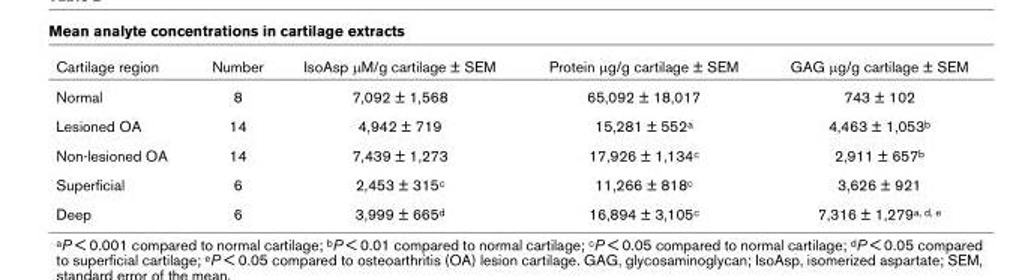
<table><thead><tr><td>Cartilage region</td><td>Number</td><td>IsoAsp μM/g cartilage ± SEM</td><td>Protein μg/g cartilage ± SEM</td><td>GAG μg/g cartilage ± SEM</td></tr></thead><tbody><tr><td>Normal</td><td>8</td><td>7,092 ± 1,568</td><td>65,092 ± 18,017</td><td>743 ± 102</td></tr><tr><td>Lesioned OA</td><td>14</td><td>4,942 ± 719</td><td>15,281 ± 552<sup>a</sup></td><td>4,463 ± 1,053<sup>b</sup></td></tr><tr><td>Non-lesioned OA</td><td>14</td><td>7,439 ± 1,273</td><td>17,926 ± 1,134<sup>c</sup></td><td>2,911 ± 657<sup>b</sup></td></tr><tr><td>Superficial</td><td>6</td><td>2,453 ± 315<sup>c</sup></td><td>11,266 ± 818<sup>c</sup></td><td>3,626 ± 921</td></tr><tr><td>Deep</td><td>6</td><td>3,999 ± 665<sup>d</sup></td><td>16,894 ± 3,105<sup>c</sup></td><td>7,316 ± 1,279<sup>a, d, e</sup></td></tr></tbody></table>